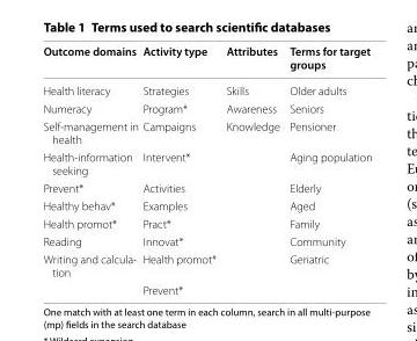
<table><thead><tr><td>Outcome domains</td><td>Activity type</td><td>Attributes</td><td>Terms for target groups</td></tr></thead><tbody><tr><td>Health literacy</td><td>Strategies</td><td>Skills</td><td>Older adults</td></tr><tr><td>Numeracy</td><td>Program*</td><td>Awareness</td><td>Seniors</td></tr><tr><td>Self-management in health</td><td>Campaigns</td><td>Knowledge</td><td>Pensioner</td></tr><tr><td>Health-information seeking</td><td>Intervent*</td><td></td><td>Aging population</td></tr><tr><td>Prevent*</td><td>Activities</td><td></td><td>Elderly</td></tr><tr><td>Healthy behav*</td><td>Examples</td><td></td><td>Aged</td></tr><tr><td>Health promot*</td><td>Pract*</td><td></td><td>Family</td></tr><tr><td>Reading</td><td>Innovat*</td><td></td><td>Community</td></tr><tr><td rowspan="2">Writing and calcula- tion</td><td>Health promot*</td><td></td><td>Geriatric</td></tr><tr><td>Prevent*</td><td></td><td></td></tr></tbody></table>